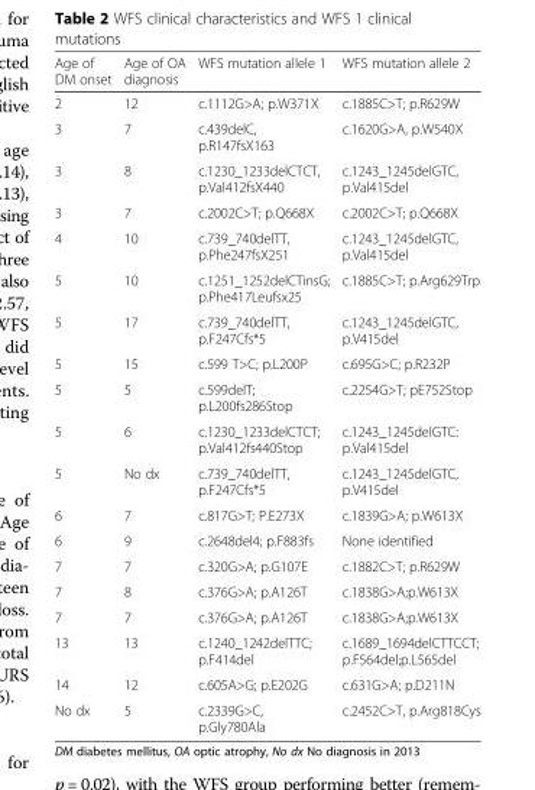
<table><thead><tr><td>Age of DM onset</td><td>Age of OA diagnosis</td><td>WFS mutation allele 1</td><td>WFS mutation allele 2</td></tr></thead><tbody><tr><td>2</td><td>12</td><td>c.1112G&gt;A; p.W371X</td><td>c.1885C&gt;T; p.R629W</td></tr><tr><td>3</td><td>7</td><td>c.439delC, p.R147fsX163</td><td>c.1620G&gt;A, p.W540X</td></tr><tr><td>3</td><td>8</td><td>c.1230_1233delCTCT, p.Val412fsX440</td><td>c.1243_1245delGTC, p.Val415del</td></tr><tr><td>3</td><td>7</td><td>c.2002C&gt;T; p.Q668X</td><td>c.2002C&gt;T; p.Q668X</td></tr><tr><td>4</td><td>10</td><td>c.739_740delTT, p.Phe247fsX251</td><td>c.1243_1245delGTC, p.Val415del</td></tr><tr><td>5</td><td>10</td><td>c.1251_1252delCTinsG; p.Phe417Leufsx25</td><td>c.1885C&gt;T; p.Arg629Trp</td></tr><tr><td>5</td><td>17</td><td>c.739_740delTT, p.F247Cfs*5</td><td>c.1243_1245delGTC, p.V415del</td></tr><tr><td>5</td><td>15</td><td>c.599 T&gt;C; p.L200P</td><td>c.695G&gt;C; p.R232P</td></tr><tr><td>5</td><td>5</td><td>c.599delT; p.L200fs286Stop</td><td>c.2254G&gt;T; pE752Stop</td></tr><tr><td>5</td><td>6</td><td>c.1230_1233delCTCT; p.Val412fs440Stop</td><td>c.1243_1245delGTC: p.Val415del</td></tr><tr><td>5</td><td>No dx</td><td>c.739_740delTT, p.F247Cfs*5</td><td>c.1243_1245delGTC, p.V415del</td></tr><tr><td>6</td><td>7</td><td>c.817G&gt;T; P.E273X</td><td>c.1839G&gt;A; p.W613X</td></tr><tr><td>6</td><td>9</td><td>c.2648del4; p.F883fs</td><td>None identified</td></tr><tr><td>7</td><td>7</td><td>c.320G&gt;A; p.G107E</td><td>c.1882C&gt;T; p.R629W</td></tr><tr><td>7</td><td>8</td><td>c.376G&gt;A; p.A126T</td><td>c.1838G&gt;A;p.W613X</td></tr><tr><td>7</td><td>7</td><td>c.376G&gt;A; p.A126T</td><td>c.1838G&gt;A;p.W613X</td></tr><tr><td>13</td><td>13</td><td>c.1240_1242delTTC; p.F414del</td><td>c.1689_1694delCTTCCT; p.F564del;p.L565del</td></tr><tr><td>14</td><td>12</td><td>c.605A&gt;G; p.E202G</td><td>c.631G&gt;A; p.D211N</td></tr><tr><td>No dx</td><td>5</td><td>c.2339G&gt;C, p.Gly780Ala</td><td>c.2452C&gt;T, p.Arg818Cys</td></tr></tbody></table>